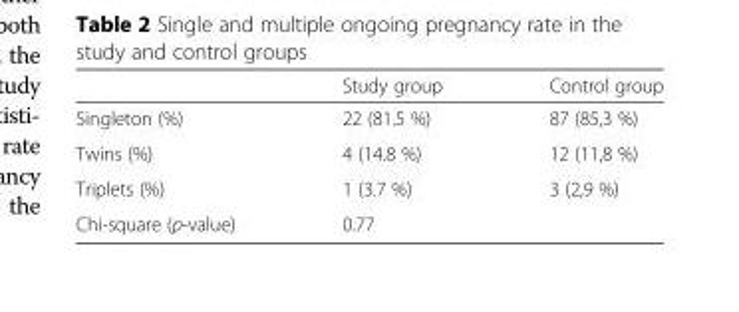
<table><thead><tr><td></td><td>Study group</td><td>Control group</td></tr></thead><tbody><tr><td>Singleton (%)</td><td>22 (81.5 %)</td><td>87 (85,3 %)</td></tr><tr><td>Twins (%)</td><td>4 (14.8 %)</td><td>12 (11,8 %)</td></tr><tr><td>Triplets (%)</td><td>1 (3.7 %)</td><td>3 (2,9 %)</td></tr><tr><td>Chi-square (p-value)</td><td colspan="2">0.77</td></tr></tbody></table>